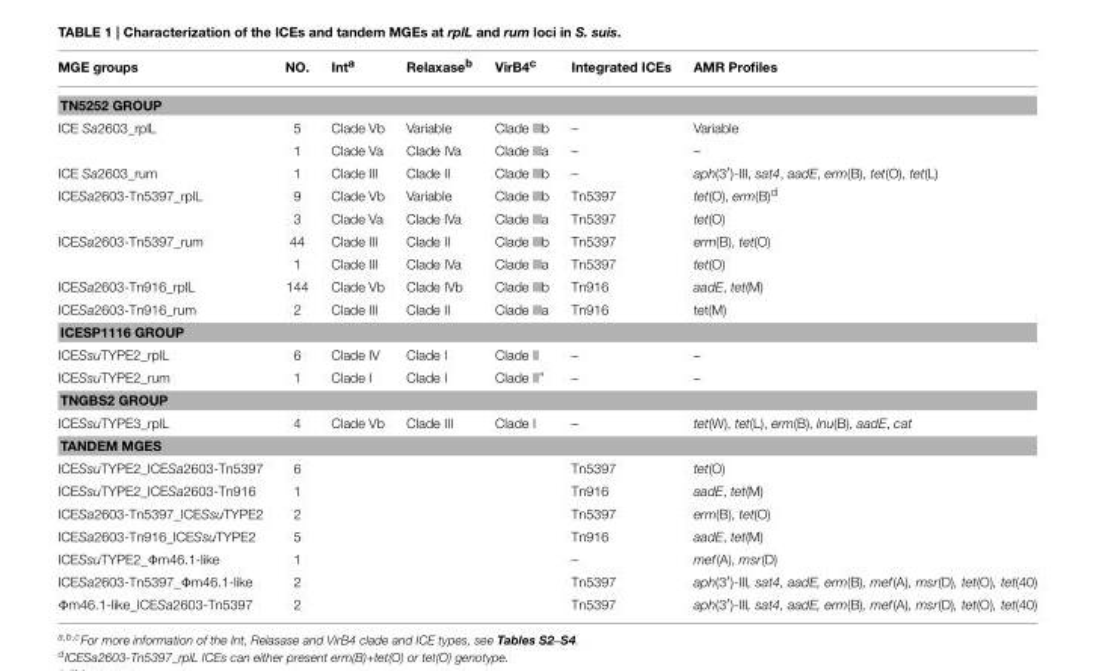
<table><thead><tr><td>MGE groups</td><td>NO.</td><td>Int<sup>a</sup></td><td>Relaxase<sup>b</sup></td><td>VirB4<sup>c</sup></td><td>Integrated ICEs</td><td>AMR Profiles</td></tr></thead><tbody><tr><td colspan="7">TN5252 GROUP</td></tr><tr><td rowspan="2">ICE Sa2603_rplL</td><td>5</td><td>Clade Vb</td><td>Variable</td><td>Clade IIIb</td><td>–</td><td>Variable</td></tr><tr><td>1</td><td>Clade Va</td><td>Clade IVa</td><td>Clade IIIa</td><td>–</td><td>–</td></tr><tr><td>ICE Sa2603_rum</td><td>1</td><td>Clade III</td><td>Clade II</td><td>Clade IIIb</td><td>–</td><td>aph(3′)-III, sat4, aadE, erm(B), tet(O), tet(L)</td></tr><tr><td rowspan="2">ICESa2603-Tn5397_rplL</td><td>9</td><td>Clade Vb</td><td>Variable</td><td>Clade IIIb</td><td>Tn5397</td><td>tet(O), erm(B)<sup>d</sup></td></tr><tr><td>3</td><td>Clade Va</td><td>Clade IVa</td><td>Clade IIIa</td><td>Tn5397</td><td>tet(O)</td></tr><tr><td rowspan="2">ICESa2603-Tn5397_rum</td><td>44</td><td>Clade III</td><td>Clade II</td><td>Clade IIIb</td><td>Tn5397</td><td>erm(B), tet(O)</td></tr><tr><td>1</td><td>Clade III</td><td>Clade IVa</td><td>Clade IIIa</td><td>Tn5397</td><td>tet(O)</td></tr><tr><td>ICESa2603-Tn916_rplL</td><td>144</td><td>Clade Vb</td><td>Clade IVb</td><td>Clade IIIb</td><td>Tn916</td><td>aadE, tet(M)</td></tr><tr><td>ICESa2603-Tn916_rum</td><td>2</td><td>Clade III</td><td>Clade II</td><td>Clade IIIa</td><td>Tn916</td><td>tet(M)</td></tr><tr><td colspan="7">ICESP1116 GROUP</td></tr><tr><td>ICESsuTYPE2_rplL</td><td>6</td><td>Clade IV</td><td>Clade I</td><td>Clade II</td><td>–</td><td>–</td></tr><tr><td>ICESsuTYPE2_rum</td><td>1</td><td>Clade I</td><td>Clade I</td><td>Clade II”</td><td>–</td><td>–</td></tr><tr><td colspan="7">TNGBS2 GROUP</td></tr><tr><td>ICESsuTYPE3_rplL</td><td>4</td><td>Clade Vb</td><td>Clade III</td><td>Clade I</td><td>–</td><td>tet(W), tet(L), erm(B), lnu(B), aadE, cat</td></tr><tr><td colspan="7">TANDEM MGES</td></tr><tr><td>ICESsuTYPE2_ICESa2603-Tn5397</td><td>6</td><td></td><td></td><td></td><td>Tn5397</td><td>tet(O)</td></tr><tr><td>ICESsuTYPE2_ICESa2603-Tn916</td><td>1</td><td></td><td></td><td></td><td>Tn916</td><td>aadE, tet(M)</td></tr><tr><td>ICESa2603-Tn5397_ICESsuTYPE2</td><td>2</td><td></td><td></td><td></td><td>Tn5397</td><td>erm(B), tet(O)</td></tr><tr><td>ICESa2603-Tn916_ICESsuTYPE2</td><td>5</td><td></td><td></td><td></td><td>Tn916</td><td>aadE, tet(M)</td></tr><tr><td>ICESsuTYPE2_Φm46.1-like</td><td>1</td><td></td><td></td><td></td><td>–</td><td>mef(A), msr(D)</td></tr><tr><td>ICESa2603-Tn5397_Φm46.1-like</td><td>2</td><td></td><td></td><td></td><td>Tn5397</td><td>aph(3′)-III, sat4, aadE, erm(B), mef(A), msr(D), tet(O), tet(40)</td></tr><tr><td>Φm46.1-like_ICESa2603-Tn5397</td><td>2</td><td></td><td></td><td></td><td>Tn5397</td><td>aph(3′)-III, sat4, aadE, erm(B), mef(A), msr(D), tet(O), tet(40)</td></tr></tbody></table>